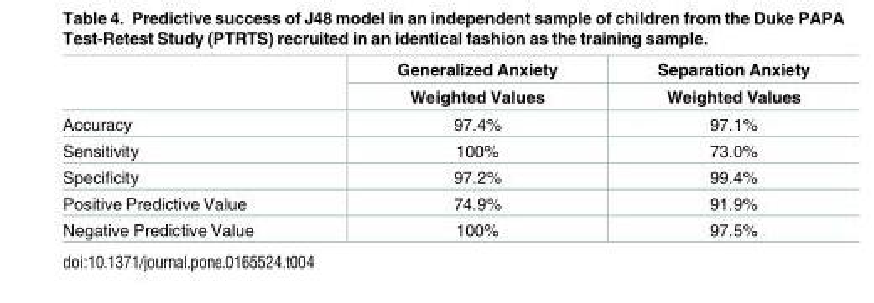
<table><thead><tr><td rowspan="2"></td><td rowspan="2">Generalized Anxiety Weighted Values</td><td rowspan="2">Separation Anxiety Weighted Values</td></tr><tr></tr></thead><tbody><tr><td>Accuracy</td><td>97.4%</td><td>97.1%</td></tr><tr><td>Sensitivity</td><td>100%</td><td>73.0%</td></tr><tr><td>Specificity</td><td>97.2%</td><td>99.4%</td></tr><tr><td>Positive Predictive Value</td><td>74.9%</td><td>91.9%</td></tr><tr><td>Negative Predictive Value</td><td>100%</td><td>97.5%</td></tr></tbody></table>